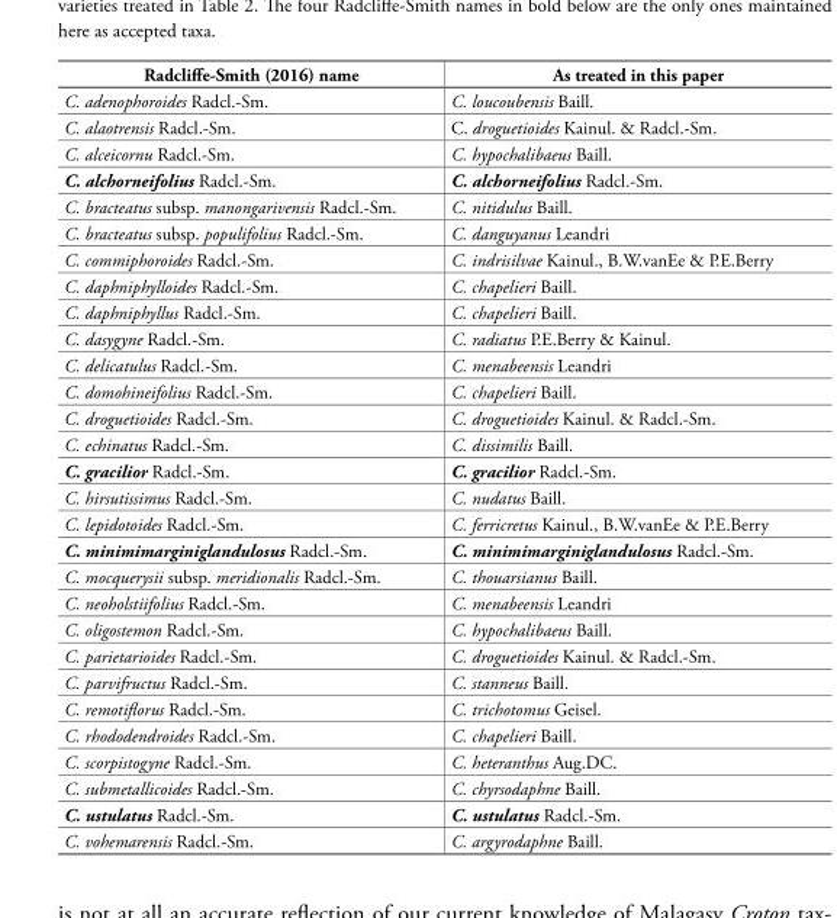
<table><thead><tr><td>Radcliffe-Smith (2016) name</td><td>As treated in this paper</td></tr></thead><tbody><tr><td>C. adenophoroides Radcl.-Sm.</td><td>C. loucoubensis Baill.</td></tr><tr><td>C. alaotrensis Radcl.-Sm.</td><td>C. droguetioides Kainul. &amp; Radcl.-Sm.</td></tr><tr><td>C. alceicornu Radcl.-Sm.</td><td>C. hypochalibaeus Baill.</td></tr><tr><td>C. alchorneifolius Radcl.-Sm.</td><td>C. alchorneifolius Radcl.-Sm.</td></tr><tr><td>C. bracteatus subsp. manongarivensis Radcl.-Sm.</td><td>C. nitidulus Baill.</td></tr><tr><td>C. bracteatus subsp. populifolius Radcl.-Sm.</td><td>C. danguyanus Leandri</td></tr><tr><td>C. commiphoroides Radcl.-Sm.</td><td>C. indrisilvae Kainul., B.W.vanEe &amp; P.E.Berry</td></tr><tr><td>C. daphniphylloides Radcl.-Sm.</td><td>C. chapelieri Baill.</td></tr><tr><td>C. daphniphyllus Radcl.-Sm.</td><td>C. chapelieri Baill.</td></tr><tr><td>C. dasygyne Radcl.-Sm.</td><td>C. radiatus P.E.Berry &amp; Kainul.</td></tr><tr><td>C. delicatulus Radcl.-Sm.</td><td>C. menabeensis Leandri</td></tr><tr><td>C. domohineifolius Radcl.-Sm.</td><td>C. chapelieri Baill.</td></tr><tr><td>C. droguetioides Radcl.-Sm.</td><td>C. droguetioides Kainul. &amp; Radcl.-Sm.</td></tr><tr><td>C. echinatus Radcl.-Sm.</td><td>C. dissimilis Baill.</td></tr><tr><td>C. gracilior Radcl.-Sm.</td><td>C. gracilior Radcl.-Sm.</td></tr><tr><td>C. hirsutissimus Radcl.-Sm.</td><td>C. nudatus Baill.</td></tr><tr><td>C. lepidotoides Radcl.-Sm.</td><td>C. ferricretus Kainul., B.W.vanEe &amp; P.E.Berry</td></tr><tr><td>C. minimimarginiglandulosus Radcl.-Sm.</td><td>C. minimimarginiglandulosus Radcl.-Sm.</td></tr><tr><td>C. mocquerysii subsp. meridionalis Radcl.-Sm.</td><td>C. thouarsianus Baill.</td></tr><tr><td>C. neoholstiifolius Radcl.-Sm.</td><td>C. menabeensis Leandri</td></tr><tr><td>C. oligostemon Radcl.-Sm.</td><td>C. hypochalibaeus Baill.</td></tr><tr><td>C. parietarioides Radcl.-Sm.</td><td>C. droguetioides Kainul. &amp; Radcl.-Sm.</td></tr><tr><td>C. parvifructus Radcl.-Sm.</td><td>C. stanneus Baill.</td></tr><tr><td>C. remotiflorus Radcl.-Sm.</td><td>C. trichotomus Geisel.</td></tr><tr><td>C. rhododendroides Radcl.-Sm.</td><td>C. chapelieri Baill.</td></tr><tr><td>C. scorpistogyne Radcl.-Sm.</td><td>C. heteranthus Aug.DC.</td></tr><tr><td>C. submetallicoides Radcl.-Sm.</td><td>C. chyrsodaphne Baill.</td></tr><tr><td>C. ustulatus Radcl.-Sm.</td><td>C. ustulatus Radcl.-Sm.</td></tr><tr><td>C. vohemarensis Radcl.-Sm.</td><td>C. argyrodaphne Baill.</td></tr></tbody></table>